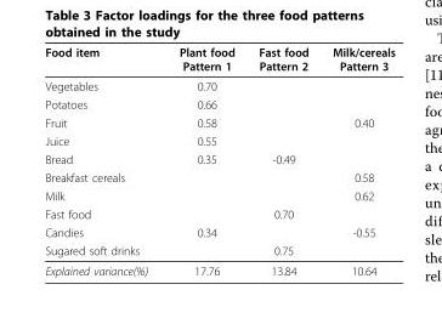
<table><thead><tr><td>Food item</td><td>Plant food Pattern 1</td><td>Fast food Pattern 2</td><td>Milk/cereals Pattern 3</td></tr></thead><tbody><tr><td>Vegetables</td><td>0.70</td><td></td><td></td></tr><tr><td>Potatoes</td><td>0.66</td><td></td><td></td></tr><tr><td>Fruit</td><td>0.58</td><td></td><td>0.40</td></tr><tr><td>Juice</td><td>0.55</td><td></td><td></td></tr><tr><td>Bread</td><td>0.35</td><td>-0.49</td><td></td></tr><tr><td>Breakfast cereals</td><td></td><td></td><td>0.58</td></tr><tr><td>Milk</td><td></td><td></td><td>0.62</td></tr><tr><td>Fast food</td><td></td><td>0.70</td><td></td></tr><tr><td>Candies</td><td>0.34</td><td></td><td>-0.55</td></tr><tr><td>Sugared soft drinks</td><td></td><td>0.75</td><td></td></tr><tr><td>Explained variance(%)</td><td>17.76</td><td>13.84</td><td>10.64</td></tr></tbody></table>